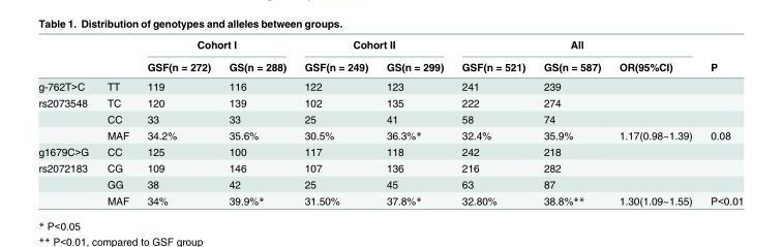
<table><thead><tr><td rowspan="2"></td><td rowspan="2"></td><td colspan="2">Cohort I</td><td colspan="2">Cohort II</td><td colspan="3">All</td><td rowspan="2">P</td></tr><tr><td>GSF(n = 272)</td><td>GS(n = 288)</td><td>GSF(n = 249)</td><td>GS(n = 299)</td><td>GSF(n = 521)</td><td>GS(n = 587)</td><td>OR(95%CI)</td></tr></thead><tbody><tr><td>g-762T&gt;C</td><td>TT</td><td>119</td><td>116</td><td>122</td><td>123</td><td>241</td><td>239</td><td></td><td></td></tr><tr><td rowspan="3">rs2073548</td><td>TC</td><td>120</td><td>139</td><td>102</td><td>135</td><td>222</td><td>274</td><td></td><td></td></tr><tr><td>CC</td><td>33</td><td>33</td><td>25</td><td>41</td><td>58</td><td>74</td><td></td><td></td></tr><tr><td>MAF</td><td>34.2%</td><td>35.6%</td><td>30.5%</td><td>36.3%*</td><td>32.4%</td><td>35.9%</td><td>1.17(0.98~1.39)</td><td>0.08</td></tr><tr><td>g1679C&gt;G</td><td>CC</td><td>125</td><td>100</td><td>117</td><td>118</td><td>242</td><td>218</td><td></td><td></td></tr><tr><td rowspan="3">rs2072183</td><td>CG</td><td>109</td><td>146</td><td>107</td><td>136</td><td>216</td><td>282</td><td></td><td></td></tr><tr><td>GG</td><td>38</td><td>42</td><td>25</td><td>45</td><td>63</td><td>87</td><td></td><td></td></tr><tr><td>MAF</td><td>34%</td><td>39.9%*</td><td>31.50%</td><td>37.8%*</td><td>32.80%</td><td>38.8%**</td><td>1.30(1.09~1.55)</td><td>P&lt;0.01</td></tr></tbody></table>